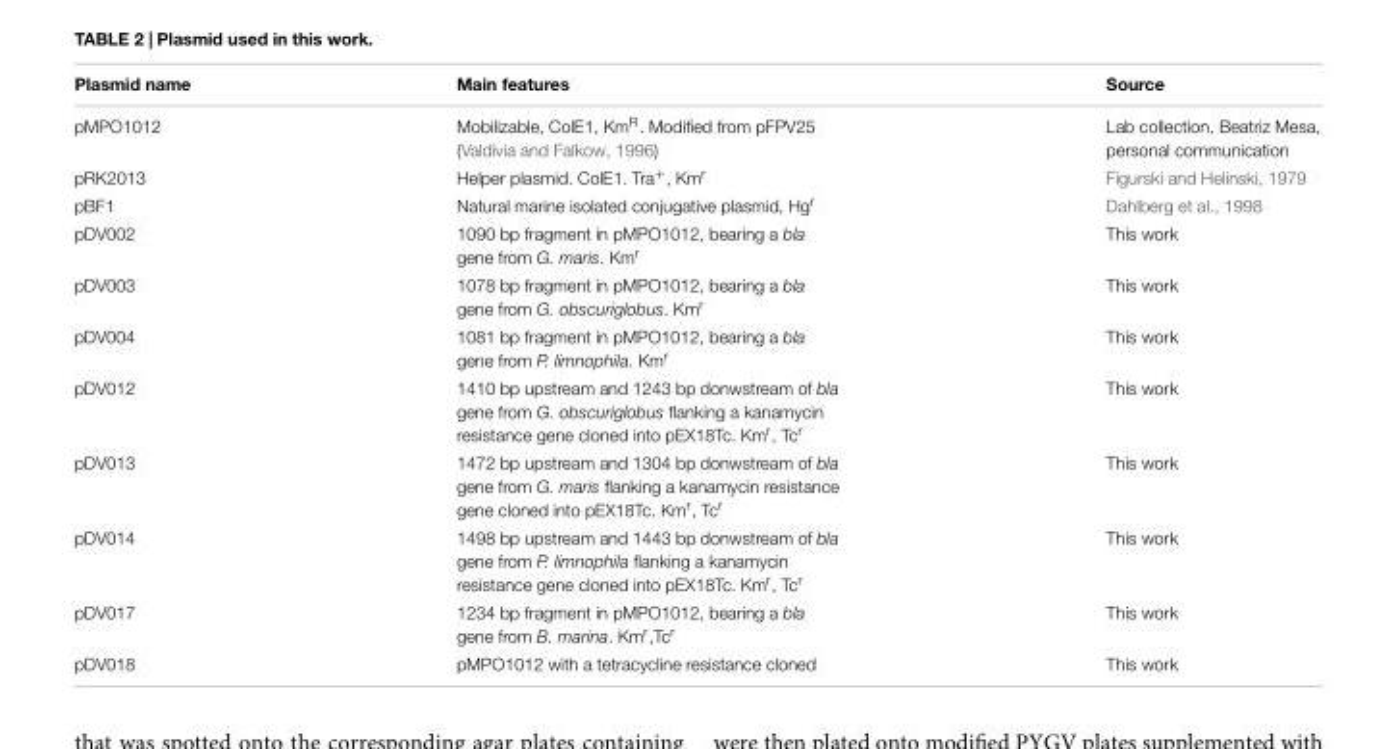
<table><thead><tr><td>Plasmid name</td><td>Main features</td><td>Source</td></tr></thead><tbody><tr><td>pMPO1012</td><td>Mobilizable, ColE1, Km<sup>R</sup>. Modified from pFPV25 (Valdivia and Falkow, 1996)</td><td>Lab collection. Beatriz Mesa, personal communication</td></tr><tr><td>pRK2013</td><td>Helper plasmid. ColE1. Tra<sup>+</sup>, Km<sup>r</sup></td><td>Figurski and Helinski, 1979</td></tr><tr><td>pBF1</td><td>Natural marine isolated conjugative plasmid, Hg<sup>r</sup></td><td>Dahlberg et al., 1998</td></tr><tr><td>pDV002</td><td>1090 bp fragment in pMPO1012, bearing a bla gene from G. maris. Km<sup>r</sup></td><td>This work</td></tr><tr><td>pDV003</td><td>1078 bp fragment in pMPO1012, bearing a bla gene from G. obscuriglobus. Km<sup>r</sup></td><td>This work</td></tr><tr><td>pDV004</td><td>1081 bp fragment in pMPO1012, bearing a bla gene from P. limnophila. Km<sup>r</sup></td><td>This work</td></tr><tr><td>pDV012</td><td>1410 bp upstream and 1243 bp donwstream of bla gene from G. obscuriglobus flanking a kanamycin resistance gene cloned into pEX18Tc. Km<sup>r</sup>, Tc<sup>r</sup></td><td>This work</td></tr><tr><td>pDV013</td><td>1472 bp upstream and 1304 bp donwstream of bla gene from G. maris flanking a kanamycin resistance gene cloned into pEX18Tc. Km<sup>r</sup>, Tc<sup>r</sup></td><td>This work</td></tr><tr><td>pDV014</td><td>1498 bp upstream and 1443 bp donwstream of bla gene from P. limnophila flanking a kanamycin resistance gene cloned into pEX18Tc. Km<sup>r</sup>, Tc<sup>r</sup></td><td>This work</td></tr><tr><td>pDV017</td><td>1234 bp fragment in pMPO1012, bearing a bla gene from B. marina. Km<sup>r</sup>,Tc<sup>r</sup></td><td>This work</td></tr><tr><td>pDV018</td><td>pMPO1012 with a tetracycline resistance cloned</td><td>This work</td></tr></tbody></table>